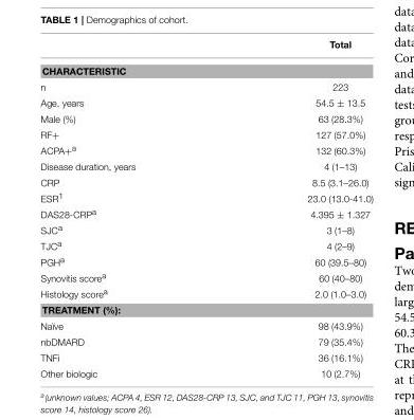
<table><thead><tr><td></td><td>Total</td></tr></thead><tbody><tr><td colspan="2">CHARACTERISTIC</td></tr><tr><td>n</td><td>223</td></tr><tr><td>Age, years</td><td>54.5 ± 13.5</td></tr><tr><td>Male (%)</td><td>63 (28.3%)</td></tr><tr><td>RF+</td><td>127 (57.0%)</td></tr><tr><td>ACPA+<sup>a</sup></td><td>132 (60.3%)</td></tr><tr><td>Disease duration, years</td><td>4 (1–13)</td></tr><tr><td>CRP</td><td>8.5 (3.1–26.0)</td></tr><tr><td>ESR<sup>1</sup></td><td>23.0 (13.0-41.0)</td></tr><tr><td>DAS28-CRP<sup>a</sup></td><td>4.395 ± 1.327</td></tr><tr><td>SJC<sup>a</sup></td><td>3 (1–8)</td></tr><tr><td>TJC<sup>a</sup></td><td>4 (2–9)</td></tr><tr><td>PGH<sup>a</sup></td><td>60 (39.5–80)</td></tr><tr><td>Synovitis score<sup>a</sup></td><td>60 (40–80)</td></tr><tr><td>Histology score<sup>a</sup></td><td>2.0 (1.0–3.0)</td></tr><tr><td colspan="2">TREATMENT (%):</td></tr><tr><td>Naïve</td><td>98 (43.9%)</td></tr><tr><td>nbDMARD</td><td>79 (35.4%)</td></tr><tr><td>TNFi</td><td>36 (16.1%)</td></tr><tr><td>Other biologic</td><td>10 (2.7%)</td></tr></tbody></table>